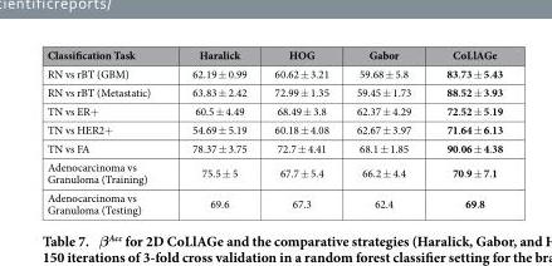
<table><thead><tr><td>Classification Task</td><td>Haralick</td><td>HOG</td><td>Gabor</td><td>CoLlAGe</td></tr></thead><tbody><tr><td>RN vs rBT (GBM)</td><td>62.19 ± 0.99</td><td>60.62 ± 3.21</td><td>59.68 ± 5.8</td><td>83.73 ± 5.43</td></tr><tr><td>RN vs rBT (Metastatic)</td><td>63.83 ± 2.42</td><td>72.99 ± 1.35</td><td>59.45 ± 1.73</td><td>88.52 ± 3.93</td></tr><tr><td>TN vs ER+</td><td>60.5 ± 4.49</td><td>68.49 ± 3.8</td><td>62.37 ± 4.29</td><td>72.52 ± 5.19</td></tr><tr><td>TN vs HER2+</td><td>54.69 ± 5.19</td><td>60.18 ± 4.08</td><td>62.67 ± 3.97</td><td>71.64 ± 6.13</td></tr><tr><td>TN vs FA</td><td>78.37 ± 3.75</td><td>72.7 ± 4.41</td><td>68.1 ± 1.85</td><td>90.06 ± 4.38</td></tr><tr><td>Adenocarcinoma vs Granuloma (Training)</td><td>75.5 ± 5</td><td>67.7 ± 5.4</td><td>66.2 ± 4.4</td><td>70.9 ± 7.1</td></tr><tr><td>Adenocarcinoma vs Granuloma (Testing)</td><td>69.6</td><td>67.3</td><td>62.4</td><td>69.8</td></tr></tbody></table>